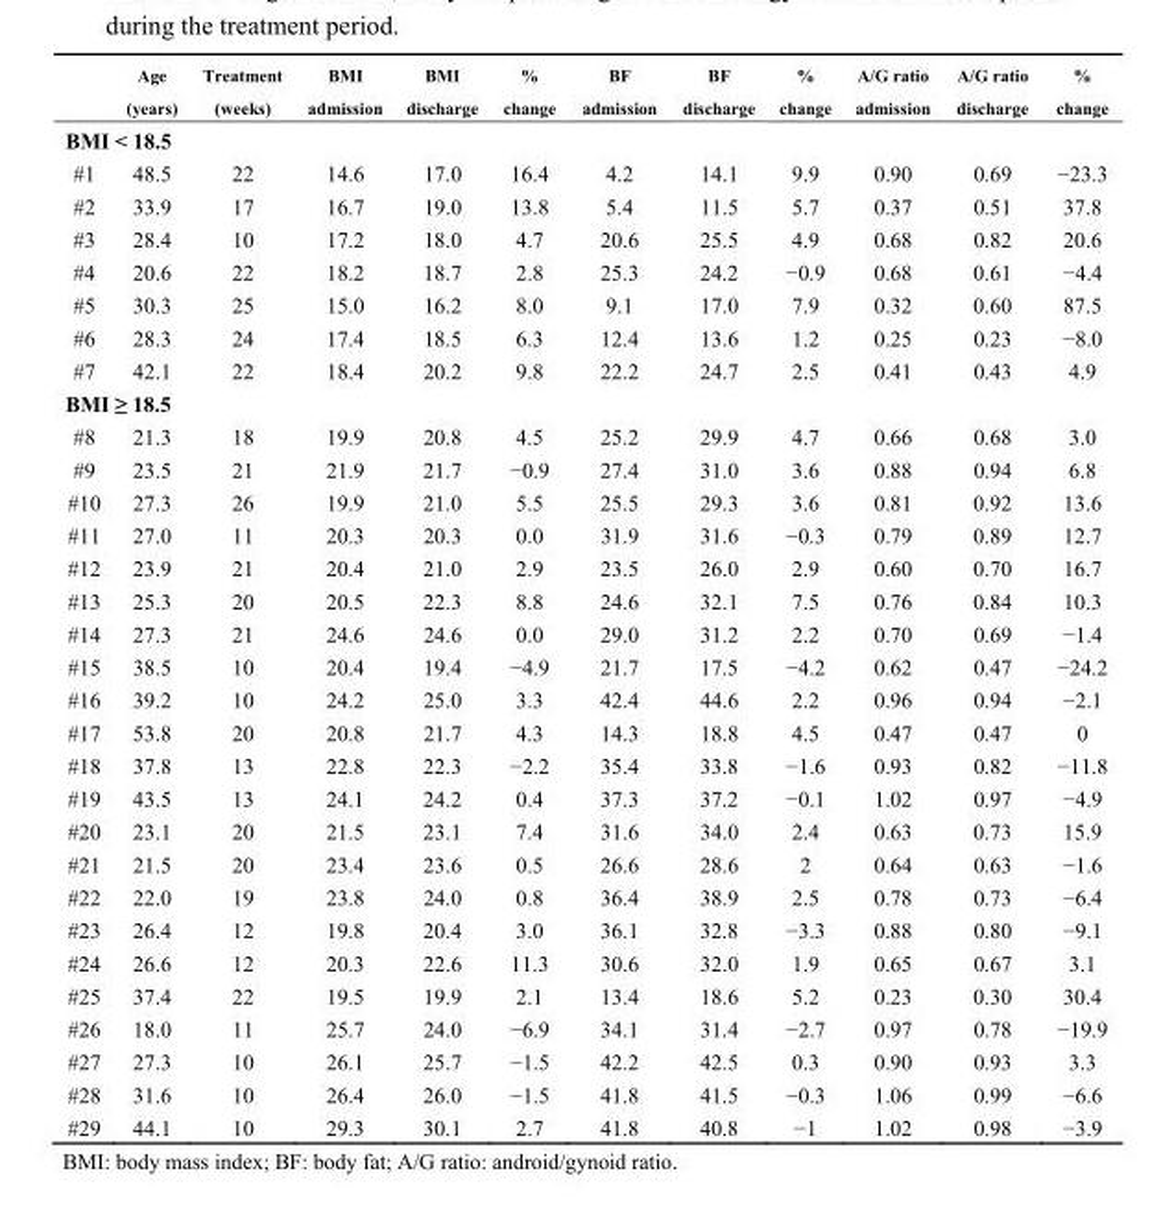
<table><thead><tr><td></td><td>Age (years)</td><td>Treatment (weeks)</td><td>BMI admission</td><td>BMI discharge</td><td>% change</td><td>BF admission</td><td>BF discharge</td><td>% change</td><td>A/G ratio admission</td><td>A/G ratio discharge</td><td>% change</td></tr></thead><tbody><tr><td colspan="12">BMI &lt; 18.5</td></tr><tr><td>#1</td><td>48.5</td><td>22</td><td>14.6</td><td>17.0</td><td>16.4</td><td>4.2</td><td>14.1</td><td>9.9</td><td>0.90</td><td>0.69</td><td>−23.3</td></tr><tr><td>#2</td><td>33.9</td><td>17</td><td>16.7</td><td>19.0</td><td>13.8</td><td>5.4</td><td>11.5</td><td>5.7</td><td>0.37</td><td>0.51</td><td>37.8</td></tr><tr><td>#3</td><td>28.4</td><td>10</td><td>17.2</td><td>18.0</td><td>4.7</td><td>20.6</td><td>25.5</td><td>4.9</td><td>0.68</td><td>0.82</td><td>20.6</td></tr><tr><td>#4</td><td>20.6</td><td>22</td><td>18.2</td><td>18.7</td><td>2.8</td><td>25.3</td><td>24.2</td><td>−0.9</td><td>0.68</td><td>0.61</td><td>−4.4</td></tr><tr><td>#5</td><td>30.3</td><td>25</td><td>15.0</td><td>16.2</td><td>8.0</td><td>9.1</td><td>17.0</td><td>7.9</td><td>0.32</td><td>0.60</td><td>87.5</td></tr><tr><td>#6</td><td>28.3</td><td>24</td><td>17.4</td><td>18.5</td><td>6.3</td><td>12.4</td><td>13.6</td><td>1.2</td><td>0.25</td><td>0.23</td><td>−8.0</td></tr><tr><td>#7</td><td>42.1</td><td>22</td><td>18.4</td><td>20.2</td><td>9.8</td><td>22.2</td><td>24.7</td><td>2.5</td><td>0.41</td><td>0.43</td><td>4.9</td></tr><tr><td colspan="12">BMI ≥ 18.5</td></tr><tr><td>#8</td><td>21.3</td><td>18</td><td>19.9</td><td>20.8</td><td>4.5</td><td>25.2</td><td>29.9</td><td>4.7</td><td>0.66</td><td>0.68</td><td>3.0</td></tr><tr><td>#9</td><td>23.5</td><td>21</td><td>21.9</td><td>21.7</td><td>−0.9</td><td>27.4</td><td>31.0</td><td>3.6</td><td>0.88</td><td>0.94</td><td>6.8</td></tr><tr><td>#10</td><td>27.3</td><td>26</td><td>19.9</td><td>21.0</td><td>5.5</td><td>25.5</td><td>29.3</td><td>3.6</td><td>0.81</td><td>0.92</td><td>13.6</td></tr><tr><td>#11</td><td>27.0</td><td>11</td><td>20.3</td><td>20.3</td><td>0.0</td><td>31.9</td><td>31.6</td><td>−0.3</td><td>0.79</td><td>0.89</td><td>12.7</td></tr><tr><td>#12</td><td>23.9</td><td>21</td><td>20.4</td><td>21.0</td><td>2.9</td><td>23.5</td><td>26.0</td><td>2.9</td><td>0.60</td><td>0.70</td><td>16.7</td></tr><tr><td>#13</td><td>25.3</td><td>20</td><td>20.5</td><td>22.3</td><td>8.8</td><td>24.6</td><td>32.1</td><td>7.5</td><td>0.76</td><td>0.84</td><td>10.3</td></tr><tr><td>#14</td><td>27.3</td><td>21</td><td>24.6</td><td>24.6</td><td>0.0</td><td>29.0</td><td>31.2</td><td>2.2</td><td>0.70</td><td>0.69</td><td>−1.4</td></tr><tr><td>#15</td><td>38.5</td><td>10</td><td>20.4</td><td>19.4</td><td>−4.9</td><td>21.7</td><td>17.5</td><td>−4.2</td><td>0.62</td><td>0.47</td><td>−24.2</td></tr><tr><td>#16</td><td>39.2</td><td>10</td><td>24.2</td><td>25.0</td><td>3.3</td><td>42.4</td><td>44.6</td><td>2.2</td><td>0.96</td><td>0.94</td><td>−2.1</td></tr><tr><td>#17</td><td>53.8</td><td>20</td><td>20.8</td><td>21.7</td><td>4.3</td><td>14.3</td><td>18.8</td><td>4.5</td><td>0.47</td><td>0.47</td><td>0</td></tr><tr><td>#18</td><td>37.8</td><td>13</td><td>22.8</td><td>22.3</td><td>−2.2</td><td>35.4</td><td>33.8</td><td>−1.6</td><td>0.93</td><td>0.82</td><td>−11.8</td></tr><tr><td>#19</td><td>43.5</td><td>13</td><td>24.1</td><td>24.2</td><td>0.4</td><td>37.3</td><td>37.2</td><td>−0.1</td><td>1.02</td><td>0.97</td><td>−4.9</td></tr><tr><td>#20</td><td>23.1</td><td>20</td><td>21.5</td><td>23.1</td><td>7.4</td><td>31.6</td><td>34.0</td><td>2.4</td><td>0.63</td><td>0.73</td><td>15.9</td></tr><tr><td>#21</td><td>21.5</td><td>20</td><td>23.4</td><td>23.6</td><td>0.5</td><td>26.6</td><td>28.6</td><td>2</td><td>0.64</td><td>0.63</td><td>−1.6</td></tr><tr><td>#22</td><td>22.0</td><td>19</td><td>23.8</td><td>24.0</td><td>0.8</td><td>36.4</td><td>38.9</td><td>2.5</td><td>0.78</td><td>0.73</td><td>−6.4</td></tr><tr><td>#23</td><td>26.4</td><td>12</td><td>19.8</td><td>20.4</td><td>3.0</td><td>36.1</td><td>32.8</td><td>−3.3</td><td>0.88</td><td>0.80</td><td>−9.1</td></tr><tr><td>#24</td><td>26.6</td><td>12</td><td>20.3</td><td>22.6</td><td>11.3</td><td>30.6</td><td>32.0</td><td>1.9</td><td>0.65</td><td>0.67</td><td>3.1</td></tr><tr><td>#25</td><td>37.4</td><td>22</td><td>19.5</td><td>19.9</td><td>2.1</td><td>13.4</td><td>18.6</td><td>5.2</td><td>0.23</td><td>0.30</td><td>30.4</td></tr><tr><td>#26</td><td>18.0</td><td>11</td><td>25.7</td><td>24.0</td><td>−6.9</td><td>34.1</td><td>31.4</td><td>−2.7</td><td>0.97</td><td>0.78</td><td>−19.9</td></tr><tr><td>#27</td><td>27.3</td><td>10</td><td>26.1</td><td>25.7</td><td>−1.5</td><td>42.2</td><td>42.5</td><td>0.3</td><td>0.90</td><td>0.93</td><td>3.3</td></tr><tr><td>#28</td><td>31.6</td><td>10</td><td>26.4</td><td>26.0</td><td>−1.5</td><td>41.8</td><td>41.5</td><td>−0.3</td><td>1.06</td><td>0.99</td><td>−6.6</td></tr><tr><td>#29</td><td>44.1</td><td>10</td><td>29.3</td><td>30.1</td><td>2.7</td><td>41.8</td><td>40.8</td><td>−1</td><td>1.02</td><td>0.98</td><td>−3.9</td></tr></tbody></table>